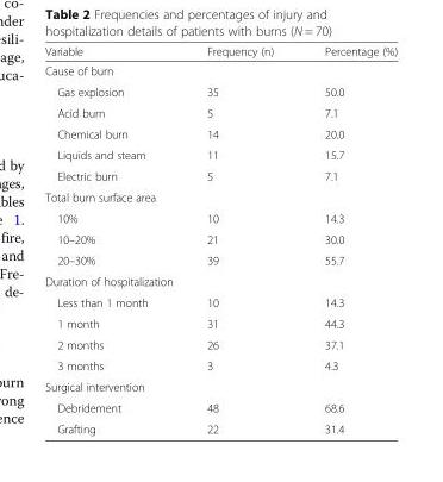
<table><thead><tr><td>Variable</td><td>Frequency (n)</td><td>Percentage (%)</td></tr></thead><tbody><tr><td colspan="3">Cause of burn</td></tr><tr><td>Gas explosion</td><td>35</td><td>50.0</td></tr><tr><td>Acid burn</td><td>5</td><td>7.1</td></tr><tr><td>Chemical burn</td><td>14</td><td>20.0</td></tr><tr><td>Liquids and steam</td><td>11</td><td>15.7</td></tr><tr><td>Electric burn</td><td>5</td><td>7.1</td></tr><tr><td colspan="3">Total burn surface area</td></tr><tr><td>10%</td><td>10</td><td>14.3</td></tr><tr><td>10–20%</td><td>21</td><td>30.0</td></tr><tr><td>20–30%</td><td>39</td><td>55.7</td></tr><tr><td colspan="3">Duration of hospitalization</td></tr><tr><td>Less than 1 month</td><td>10</td><td>14.3</td></tr><tr><td>1 month</td><td>31</td><td>44.3</td></tr><tr><td>2 months</td><td>26</td><td>37.1</td></tr><tr><td>3 months</td><td>3</td><td>4.3</td></tr><tr><td colspan="3">Surgical intervention</td></tr><tr><td>Debridement</td><td>48</td><td>68.6</td></tr><tr><td>Grafting</td><td>22</td><td>31.4</td></tr></tbody></table>